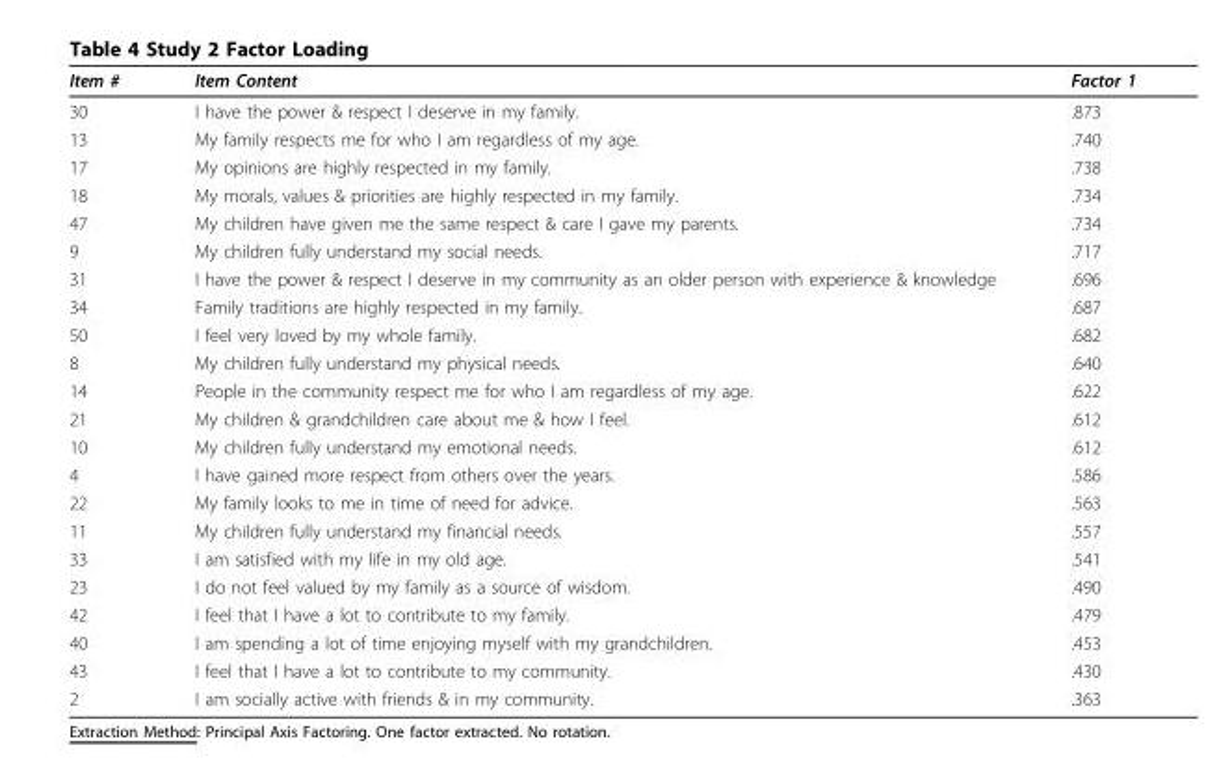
<table><thead><tr><td>Item #</td><td>Item Content</td><td>Factor 1</td></tr></thead><tbody><tr><td>30</td><td>I have the power &amp; respect I deserve in my family.</td><td>.873</td></tr><tr><td>13</td><td>My family respects me for who I am regardless of my age.</td><td>.740</td></tr><tr><td>17</td><td>My opinions are highly respected in my family.</td><td>.738</td></tr><tr><td>18</td><td>My morals, values &amp; priorities are highly respected in my family.</td><td>.734</td></tr><tr><td>47</td><td>My children have given me the same respect &amp; care I gave my parents.</td><td>.734</td></tr><tr><td>9</td><td>My children fully understand my social needs.</td><td>.717</td></tr><tr><td>31</td><td>I have the power &amp; respect I deserve in my community as an older person with experience &amp; knowledge</td><td>.696</td></tr><tr><td>34</td><td>Family traditions are highly respected in my family.</td><td>.687</td></tr><tr><td>50</td><td>I feel very loved by my whole family.</td><td>.682</td></tr><tr><td>8</td><td>My children fully understand my physical needs.</td><td>.640</td></tr><tr><td>14</td><td>People in the community respect me for who I am regardless of my age.</td><td>.622</td></tr><tr><td>21</td><td>My children &amp; grandchildren care about me &amp; how I feel.</td><td>.612</td></tr><tr><td>10</td><td>My children fully understand my emotional needs.</td><td>.612</td></tr><tr><td>4</td><td>I have gained more respect from others over the years.</td><td>.586</td></tr><tr><td>22</td><td>My family looks to me in time of need for advice.</td><td>.563</td></tr><tr><td>11</td><td>My children fully understand my financial needs.</td><td>.557</td></tr><tr><td>33</td><td>I am satisfied with my life in my old age.</td><td>.541</td></tr><tr><td>23</td><td>I do not feel valued by my family as a source of wisdom.</td><td>.490</td></tr><tr><td>42</td><td>I feel that I have a lot to contribute to my family.</td><td>.479</td></tr><tr><td>40</td><td>I am spending a lot of time enjoying myself with my grandchildren.</td><td>.453</td></tr><tr><td>43</td><td>I feel that I have a lot to contribute to my community.</td><td>.430</td></tr><tr><td>2</td><td>I am socially active with friends &amp; in my community.</td><td>.363</td></tr></tbody></table>